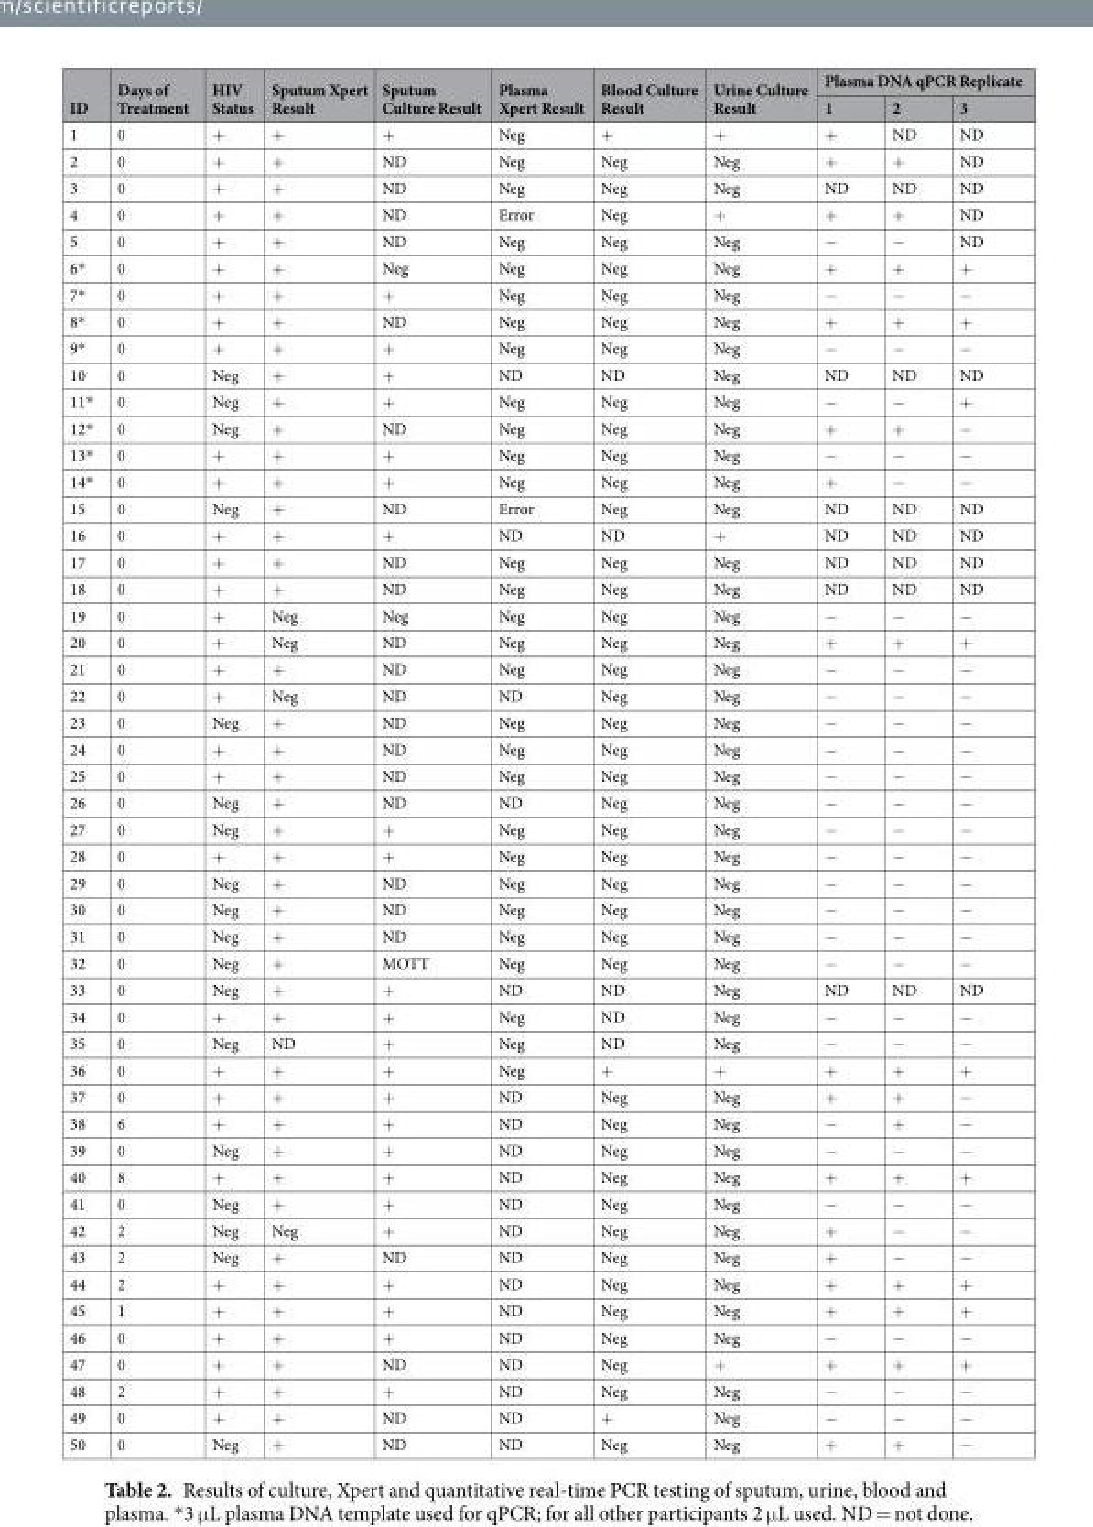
<table><thead><tr><td rowspan="2">ID</td><td rowspan="2">Days of Treatment</td><td rowspan="2">HIV Status</td><td rowspan="2">Sputum Xpert Result</td><td rowspan="2">Sputum Culture Result</td><td rowspan="2">Plasma Xpert Result</td><td rowspan="2">Blood Culture Result</td><td rowspan="2">Urine Culture Result</td><td colspan="3">Plasma DNA qPCR Replicate</td></tr><tr><td>1</td><td>2</td><td>3</td></tr></thead><tbody><tr><td>1</td><td>0</td><td>+</td><td>+</td><td>+</td><td>Neg</td><td>+</td><td>+</td><td>+</td><td>ND</td><td>ND</td></tr><tr><td>2</td><td>0</td><td>+</td><td>+</td><td>ND</td><td>Neg</td><td>Neg</td><td>Neg</td><td>+</td><td>+</td><td>ND</td></tr><tr><td>3</td><td>0</td><td>+</td><td>+</td><td>ND</td><td>Neg</td><td>Neg</td><td>Neg</td><td>ND</td><td>ND</td><td>ND</td></tr><tr><td>4</td><td>0</td><td>+</td><td>+</td><td>ND</td><td>Error</td><td>Neg</td><td>+</td><td>+</td><td>+</td><td>ND</td></tr><tr><td>5</td><td>0</td><td>+</td><td>+</td><td>ND</td><td>Neg</td><td>Neg</td><td>Neg</td><td>−</td><td>−</td><td>ND</td></tr><tr><td>6*</td><td>0</td><td>+</td><td>+</td><td>Neg</td><td>Neg</td><td>Neg</td><td>Neg</td><td>+</td><td>+</td><td>+</td></tr><tr><td>7*</td><td>0</td><td>+</td><td>+</td><td>+</td><td>Neg</td><td>Neg</td><td>Neg</td><td>−</td><td>−</td><td>−</td></tr><tr><td>8*</td><td>0</td><td>+</td><td>+</td><td>ND</td><td>Neg</td><td>Neg</td><td>Neg</td><td>+</td><td>+</td><td>+</td></tr><tr><td>9*</td><td>0</td><td>+</td><td>+</td><td>+</td><td>Neg</td><td>Neg</td><td>Neg</td><td>−</td><td>−</td><td>−</td></tr><tr><td>10</td><td>0</td><td>Neg</td><td>+</td><td>+</td><td>ND</td><td>ND</td><td>Neg</td><td>ND</td><td>ND</td><td>ND</td></tr><tr><td>11*</td><td>0</td><td>Neg</td><td>+</td><td>+</td><td>Neg</td><td>Neg</td><td>Neg</td><td>−</td><td>−</td><td>+</td></tr><tr><td>12*</td><td>0</td><td>Neg</td><td>+</td><td>ND</td><td>Neg</td><td>Neg</td><td>Neg</td><td>+</td><td>+</td><td>−</td></tr><tr><td>13*</td><td>0</td><td>+</td><td>+</td><td>+</td><td>Neg</td><td>Neg</td><td>Neg</td><td>−</td><td>−</td><td>−</td></tr><tr><td>14*</td><td>0</td><td>+</td><td>+</td><td>+</td><td>Neg</td><td>Neg</td><td>Neg</td><td>+</td><td>−</td><td>−</td></tr><tr><td>15</td><td>0</td><td>Neg</td><td>+</td><td>ND</td><td>Error</td><td>Neg</td><td>Neg</td><td>ND</td><td>ND</td><td>ND</td></tr><tr><td>16</td><td>0</td><td>+</td><td>+</td><td>+</td><td>ND</td><td>ND</td><td>+</td><td>ND</td><td>ND</td><td>ND</td></tr><tr><td>17</td><td>0</td><td>+</td><td>+</td><td>ND</td><td>Neg</td><td>Neg</td><td>Neg</td><td>ND</td><td>ND</td><td>ND</td></tr><tr><td>18</td><td>0</td><td>+</td><td>+</td><td>ND</td><td>Neg</td><td>Neg</td><td>Neg</td><td>ND</td><td>ND</td><td>ND</td></tr><tr><td>19</td><td>0</td><td>+</td><td>Neg</td><td>Neg</td><td>Neg</td><td>Neg</td><td>Neg</td><td>−</td><td>−</td><td>−</td></tr><tr><td>20</td><td>0</td><td>+</td><td>Neg</td><td>ND</td><td>Neg</td><td>Neg</td><td>Neg</td><td>+</td><td>+</td><td>+</td></tr><tr><td>21</td><td>0</td><td>+</td><td>+</td><td>ND</td><td>Neg</td><td>Neg</td><td>Neg</td><td>−</td><td>−</td><td>−</td></tr><tr><td>22</td><td>0</td><td>+</td><td>Neg</td><td>ND</td><td>ND</td><td>Neg</td><td>Neg</td><td>−</td><td>−</td><td>−</td></tr><tr><td>23</td><td>0</td><td>Neg</td><td>+</td><td>ND</td><td>Neg</td><td>Neg</td><td>Neg</td><td>−</td><td>−</td><td>−</td></tr><tr><td>24</td><td>0</td><td>+</td><td>+</td><td>ND</td><td>Neg</td><td>Neg</td><td>Neg</td><td>−</td><td>−</td><td>−</td></tr><tr><td>25</td><td>0</td><td>+</td><td>+</td><td>ND</td><td>Neg</td><td>Neg</td><td>Neg</td><td>−</td><td>−</td><td>−</td></tr><tr><td>26</td><td>0</td><td>Neg</td><td>+</td><td>ND</td><td>ND</td><td>Neg</td><td>Neg</td><td>−</td><td>−</td><td>−</td></tr><tr><td>27</td><td>0</td><td>Neg</td><td>+</td><td>+</td><td>Neg</td><td>Neg</td><td>Neg</td><td>−</td><td>−</td><td>−</td></tr><tr><td>28</td><td>0</td><td>+</td><td>+</td><td>+</td><td>Neg</td><td>Neg</td><td>Neg</td><td>−</td><td>−</td><td>−</td></tr><tr><td>29</td><td>0</td><td>Neg</td><td>+</td><td>ND</td><td>Neg</td><td>Neg</td><td>Neg</td><td>−</td><td>−</td><td>−</td></tr><tr><td>30</td><td>0</td><td>Neg</td><td>+</td><td>ND</td><td>Neg</td><td>Neg</td><td>Neg</td><td>−</td><td>−</td><td>−</td></tr><tr><td>31</td><td>0</td><td>Neg</td><td>+</td><td>ND</td><td>Neg</td><td>Neg</td><td>Neg</td><td>−</td><td>−</td><td>−</td></tr><tr><td>32</td><td>0</td><td>Neg</td><td>+</td><td>MOTT</td><td>Neg</td><td>Neg</td><td>Neg</td><td>−</td><td>−</td><td>−</td></tr><tr><td>33</td><td>0</td><td>Neg</td><td>+</td><td>+</td><td>ND</td><td>ND</td><td>Neg</td><td>ND</td><td>ND</td><td>ND</td></tr><tr><td>34</td><td>0</td><td>+</td><td>+</td><td>+</td><td>Neg</td><td>ND</td><td>Neg</td><td>−</td><td>−</td><td>−</td></tr><tr><td>35</td><td>0</td><td>Neg</td><td>ND</td><td>+</td><td>Neg</td><td>ND</td><td>Neg</td><td>−</td><td>−</td><td>−</td></tr><tr><td>36</td><td>0</td><td>+</td><td>+</td><td>+</td><td>Neg</td><td>+</td><td>+</td><td>+</td><td>+</td><td>+</td></tr><tr><td>37</td><td>0</td><td>+</td><td>+</td><td>+</td><td>ND</td><td>Neg</td><td>Neg</td><td>+</td><td>+</td><td>−</td></tr><tr><td>38</td><td>6</td><td>+</td><td>+</td><td>+</td><td>ND</td><td>Neg</td><td>Neg</td><td>−</td><td>+</td><td>−</td></tr><tr><td>39</td><td>0</td><td>Neg</td><td>+</td><td>+</td><td>ND</td><td>Neg</td><td>Neg</td><td>−</td><td>−</td><td>−</td></tr><tr><td>40</td><td>8</td><td>+</td><td>+</td><td>+</td><td>ND</td><td>Neg</td><td>Neg</td><td>+</td><td>+</td><td>+</td></tr><tr><td>41</td><td>0</td><td>Neg</td><td>+</td><td>+</td><td>ND</td><td>Neg</td><td>Neg</td><td>−</td><td>−</td><td>−</td></tr><tr><td>42</td><td>2</td><td>Neg</td><td>Neg</td><td>+</td><td>ND</td><td>Neg</td><td>Neg</td><td>+</td><td>−</td><td>−</td></tr><tr><td>43</td><td>2</td><td>Neg</td><td>+</td><td>ND</td><td>ND</td><td>Neg</td><td>Neg</td><td>+</td><td>−</td><td>−</td></tr><tr><td>44</td><td>2</td><td>+</td><td>+</td><td>+</td><td>ND</td><td>Neg</td><td>Neg</td><td>+</td><td>+</td><td>+</td></tr><tr><td>45</td><td>1</td><td>+</td><td>+</td><td>+</td><td>ND</td><td>Neg</td><td>Neg</td><td>+</td><td>+</td><td>+</td></tr><tr><td>46</td><td>0</td><td>+</td><td>+</td><td>+</td><td>ND</td><td>Neg</td><td>Neg</td><td>−</td><td>−</td><td>−</td></tr><tr><td>47</td><td>0</td><td>+</td><td>+</td><td>ND</td><td>ND</td><td>Neg</td><td>+</td><td>+</td><td>+</td><td>+</td></tr><tr><td>48</td><td>2</td><td>+</td><td>+</td><td>+</td><td>ND</td><td>Neg</td><td>Neg</td><td>−</td><td>−</td><td>−</td></tr><tr><td>49</td><td>0</td><td>+</td><td>+</td><td>ND</td><td>ND</td><td>+</td><td>Neg</td><td>−</td><td>−</td><td>−</td></tr><tr><td>50</td><td>0</td><td>Neg</td><td>+</td><td>ND</td><td>ND</td><td>Neg</td><td>Neg</td><td>+</td><td>+</td><td>−</td></tr></tbody></table>